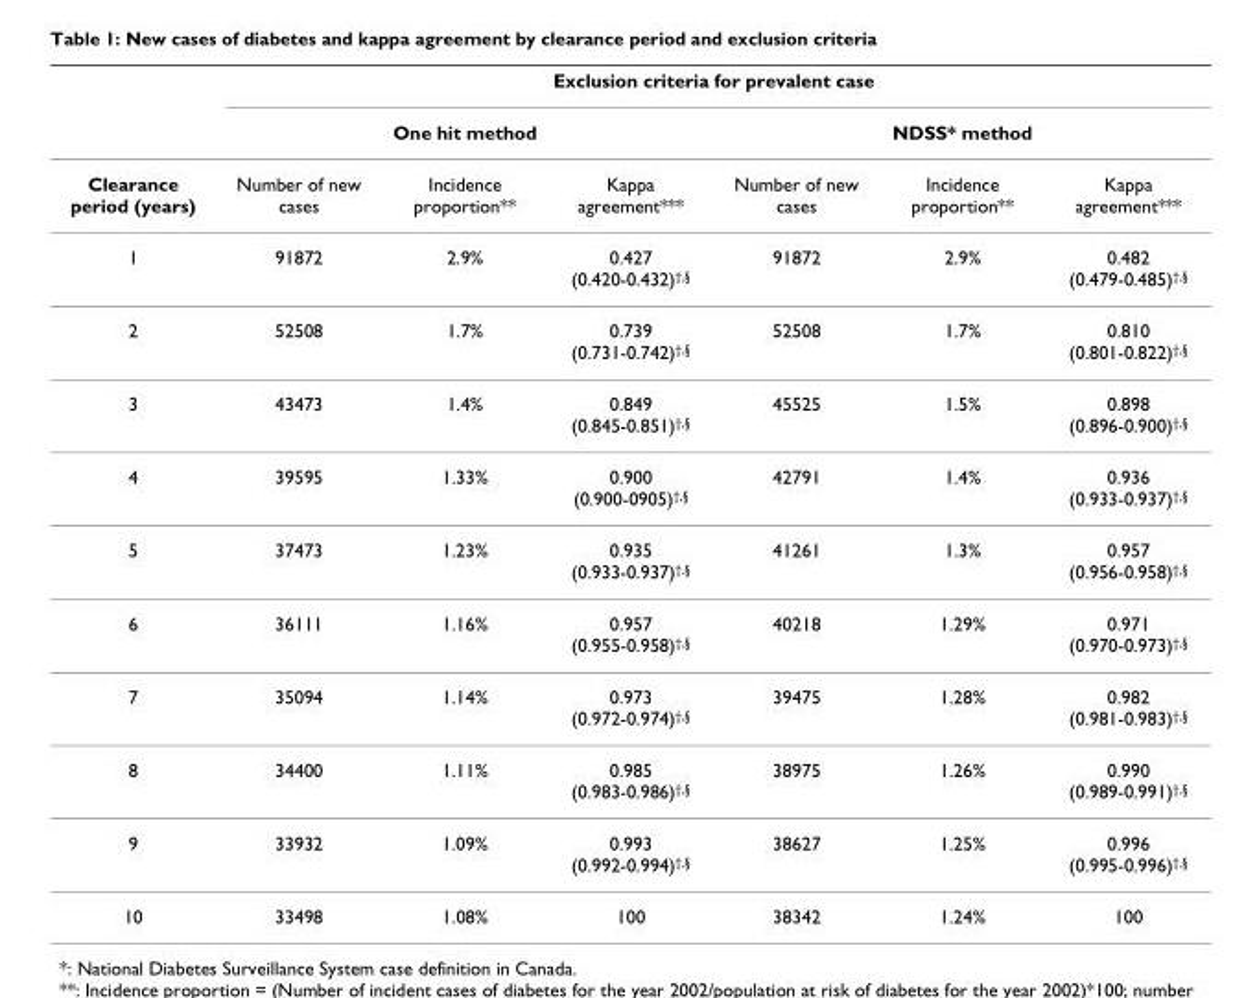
<table><thead><tr><td rowspan="3">Clearance period (years)</td><td colspan="6">Exclusion criteria for prevalent case</td></tr><tr><td colspan="3">One hit method</td><td colspan="3">NDSS* method</td></tr><tr><td>Number of new cases</td><td>Incidence proportion**</td><td>Kappa agreement***</td><td>Number of new cases</td><td>Incidence proportion**</td><td>Kappa agreement***</td></tr></thead><tbody><tr><td>1</td><td>91872</td><td>2.9%</td><td>0.427 (0.420-0.432)<sup>†,§</sup></td><td>91872</td><td>2.9%</td><td>0.482 (0.479-0.485)<sup>†,§</sup></td></tr><tr><td>2</td><td>52508</td><td>1.7%</td><td>0.739 (0.731-0.742)<sup>†,§</sup></td><td>52508</td><td>1.7%</td><td>0.810 (0.801-0.822)<sup>†,§</sup></td></tr><tr><td>3</td><td>43473</td><td>1.4%</td><td>0.849 (0.845-0.851)<sup>†,§</sup></td><td>45525</td><td>1.5%</td><td>0.898 (0.896-0.900)<sup>†,§</sup></td></tr><tr><td>4</td><td>39595</td><td>1.33%</td><td>0.900 (0.900-0905)<sup>†,§</sup></td><td>42791</td><td>1.4%</td><td>0.936 (0.933-0.937)<sup>†,§</sup></td></tr><tr><td>5</td><td>37473</td><td>1.23%</td><td>0.935 (0.933-0.937)<sup>†,§</sup></td><td>41261</td><td>1.3%</td><td>0.957 (0.956-0.958)<sup>†,§</sup></td></tr><tr><td>6</td><td>36111</td><td>1.16%</td><td>0.957 (0.955-0.958)<sup>†,§</sup></td><td>40218</td><td>1.29%</td><td>0.971 (0.970-0.973)<sup>†,§</sup></td></tr><tr><td>7</td><td>35094</td><td>1.14%</td><td>0.973 (0.972-0.974)<sup>†,§</sup></td><td>39475</td><td>1.28%</td><td>0.982 (0.981-0.983)<sup>†,§</sup></td></tr><tr><td>8</td><td>34400</td><td>1.11%</td><td>0.985 (0.983-0.986)<sup>†,§</sup></td><td>38975</td><td>1.26%</td><td>0.990 (0.989-0.991)<sup>†,§</sup></td></tr><tr><td>9</td><td>33932</td><td>1.09%</td><td>0.993 (0.992-0.994)<sup>†,§</sup></td><td>38627</td><td>1.25%</td><td>0.996 (0.995-0.996)<sup>†,§</sup></td></tr><tr><td>10</td><td>33498</td><td>1.08%</td><td>100</td><td>38342</td><td>1.24%</td><td>100</td></tr></tbody></table>